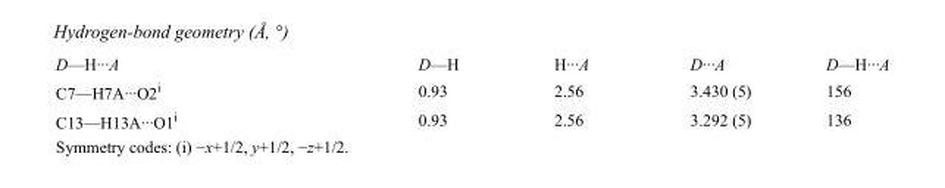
<table><tbody><tr><td>D—H···A</td><td>D—H</td><td>H···A</td><td>D···A</td><td>D—H···A</td></tr><tr><td>C7—H7A···O2<sup>i</sup></td><td>0.93</td><td>2.56</td><td>3.430 (5)</td><td>156</td></tr><tr><td>C13—H13A···O1<sup>i</sup></td><td>0.93</td><td>2.56</td><td>3.292 (5)</td><td>136</td></tr></tbody></table>